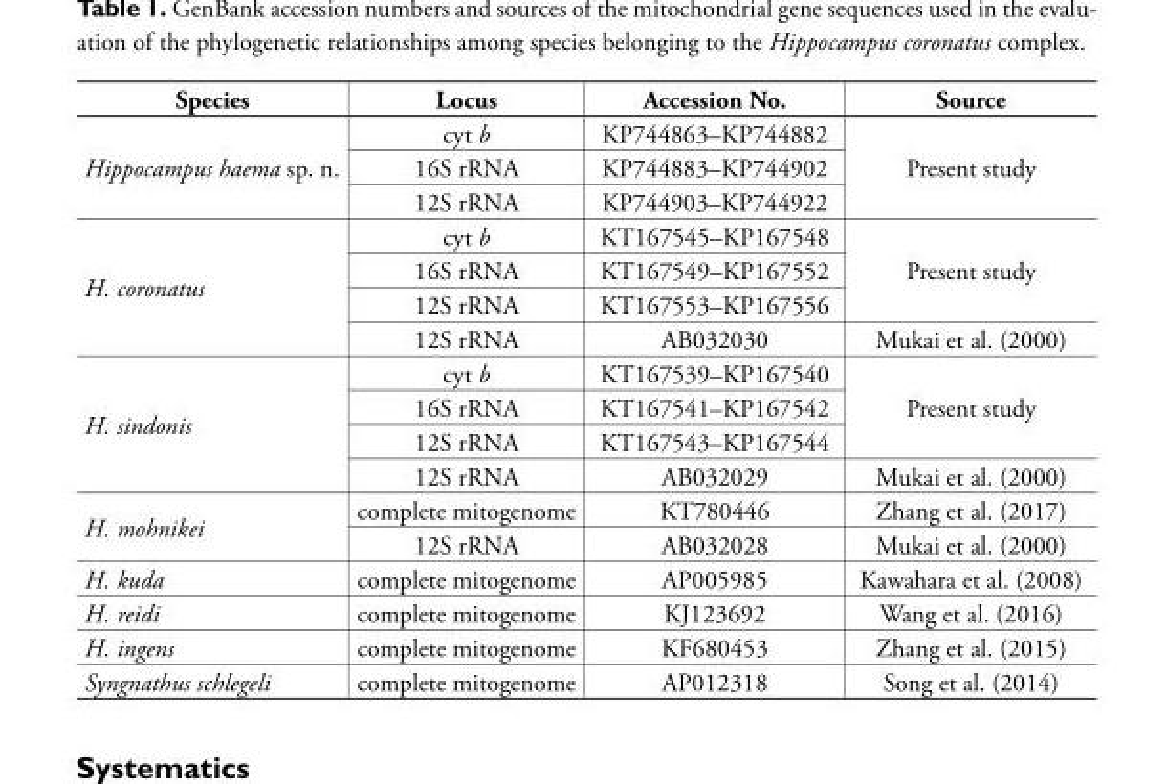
<table><thead><tr><td>Species</td><td>Locus</td><td>Accession No.</td><td>Source</td></tr></thead><tbody><tr><td rowspan="3">Hippocampus haema sp. n.</td><td>cyt b</td><td>KP744863–KP744882</td><td rowspan="3">Present study</td></tr><tr><td>16S rRNA</td><td>KP744883–KP744902</td></tr><tr><td>12S rRNA</td><td>KP744903–KP744922</td></tr><tr><td rowspan="4">H. coronatus</td><td>cyt b</td><td>KT167545–KP167548</td><td rowspan="3">Present study</td></tr><tr><td>16S rRNA</td><td>KT167549–KP167552</td></tr><tr><td>12S rRNA</td><td>KT167553–KP167556</td></tr><tr><td>12S rRNA</td><td>AB032030</td><td>Mukai et al. (2000)</td></tr><tr><td rowspan="4">H. sindonis</td><td>cyt b</td><td>KT167539–KP167540</td><td rowspan="3">Present study</td></tr><tr><td>16S rRNA</td><td>KT167541–KP167542</td></tr><tr><td>12S rRNA</td><td>KT167543–KP167544</td></tr><tr><td>12S rRNA</td><td>AB032029</td><td>Mukai et al. (2000)</td></tr><tr><td rowspan="2">H. mohnikei</td><td>complete mitogenome</td><td>KT780446</td><td>Zhang et al. (2017)</td></tr><tr><td>12S rRNA</td><td>AB032028</td><td>Mukai et al. (2000)</td></tr><tr><td>H. kuda</td><td>complete mitogenome</td><td>AP005985</td><td>Kawahara et al. (2008)</td></tr><tr><td>H. reidi</td><td>complete mitogenome</td><td>KJ123692</td><td>Wang et al. (2016)</td></tr><tr><td>H. ingens</td><td>complete mitogenome</td><td>KF680453</td><td>Zhang et al. (2015)</td></tr><tr><td>Syngnathus schlegeli</td><td>complete mitogenome</td><td>AP012318</td><td>Song et al. (2014)</td></tr></tbody></table>